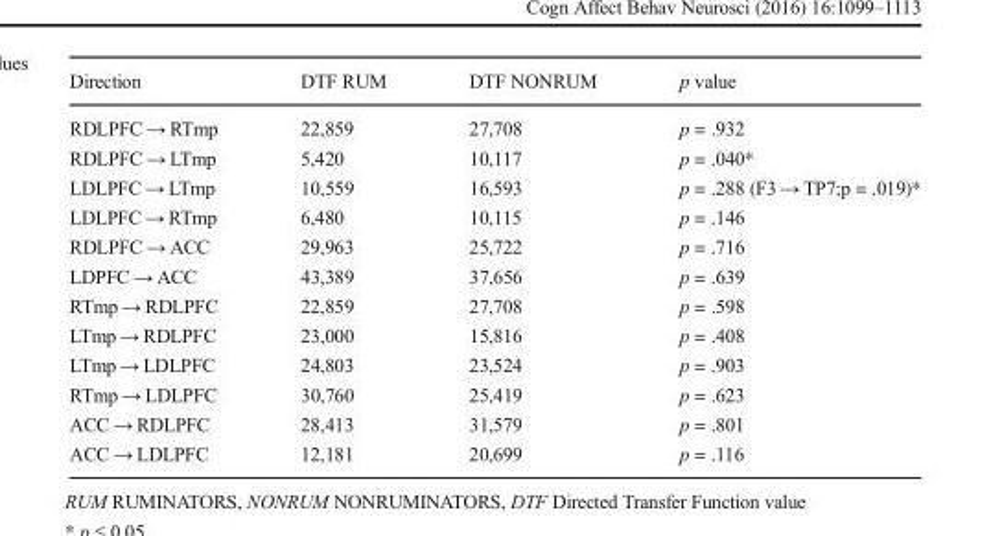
<table><thead><tr><td>Direction</td><td>DTF RUM</td><td>DTF NONRUM</td><td>p value</td></tr></thead><tbody><tr><td>RDLPFC → RTmp</td><td>22,859</td><td>27,708</td><td>p = .932</td></tr><tr><td>RDLPFC → LTmp</td><td>5,420</td><td>10,117</td><td>p = .040*</td></tr><tr><td>LDLPFC → LTmp</td><td>10,559</td><td>16,593</td><td>p = .288 (F3 → TP7;p = .019)*</td></tr><tr><td>LDLPFC → RTmp</td><td>6,480</td><td>10,115</td><td>p = .146</td></tr><tr><td>RDLPFC → ACC</td><td>29,963</td><td>25,722</td><td>p = .716</td></tr><tr><td>LDPFC → ACC</td><td>43,389</td><td>37,656</td><td>p = .639</td></tr><tr><td>RTmp → RDLPFC</td><td>22,859</td><td>27,708</td><td>p = .598</td></tr><tr><td>LTmp → RDLPFC</td><td>23,000</td><td>15,816</td><td>p = .408</td></tr><tr><td>LTmp → LDLPFC</td><td>24,803</td><td>23,524</td><td>p = .903</td></tr><tr><td>RTmp → LDLPFC</td><td>30,760</td><td>25,419</td><td>p = .623</td></tr><tr><td>ACC → RDLPFC</td><td>28,413</td><td>31,579</td><td>p = .801</td></tr><tr><td>ACC → LDLPFC</td><td>12,181</td><td>20,699</td><td>p = .116</td></tr></tbody></table>